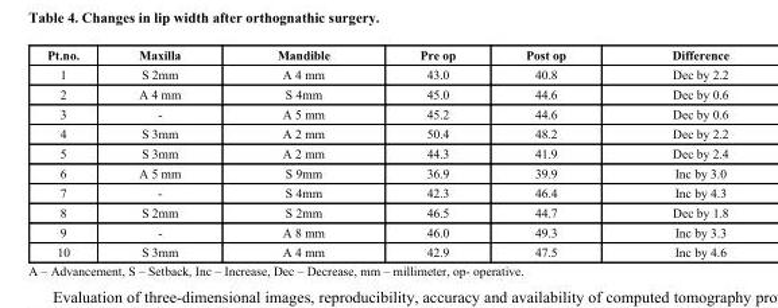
<table><thead><tr><td>Pt.no.</td><td>Maxilla</td><td>Mandible</td><td>Pre op</td><td>Post op</td><td>Difference</td></tr></thead><tbody><tr><td>1</td><td>S 2mm</td><td>A 4 mm</td><td>43.0</td><td>40.8</td><td>Dec by 2.2</td></tr><tr><td>2</td><td>A 4 mm</td><td>S 4mm</td><td>45.0</td><td>44.6</td><td>Dec by 0.6</td></tr><tr><td>3</td><td>-</td><td>A 5 mm</td><td>45.2</td><td>44.6</td><td>Dec by 0.6</td></tr><tr><td>4</td><td>S 3mm</td><td>A 2 mm</td><td>50.4</td><td>48.2</td><td>Dec by 2.2</td></tr><tr><td>5</td><td>S 3mm</td><td>A 2 mm</td><td>44.3</td><td>41.9</td><td>Dec by 2.4</td></tr><tr><td>6</td><td>A 5 mm</td><td>S 9mm</td><td>36.9</td><td>39.9</td><td>Inc by 3.0</td></tr><tr><td>7</td><td>-</td><td>S 4mm</td><td>42.3</td><td>46.4</td><td>Inc by 4.3</td></tr><tr><td>8</td><td>S 2mm</td><td>S 2mm</td><td>46.5</td><td>44.7</td><td>Dec by 1.8</td></tr><tr><td>9</td><td>-</td><td>A 8 mm</td><td>46.0</td><td>49.3</td><td>Inc by 3.3</td></tr><tr><td>10</td><td>S 3mm</td><td>A 4 mm</td><td>42.9</td><td>47.5</td><td>Inc by 4.6</td></tr></tbody></table>